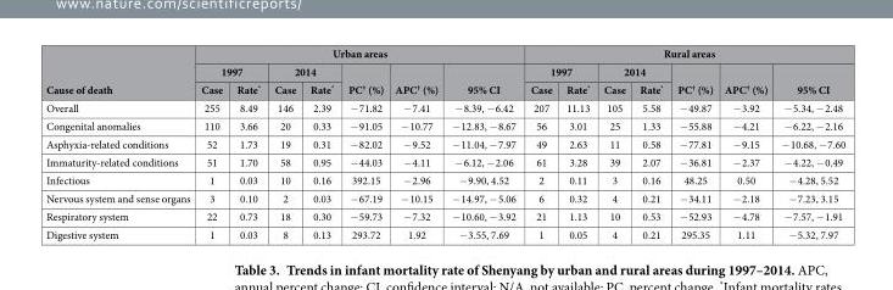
<table><thead><tr><td rowspan="3">Cause of death</td><td colspan="7">Urban areas</td><td colspan="7">Rural areas</td></tr><tr><td colspan="2">1997</td><td colspan="2">2014</td><td rowspan="2">PC† (%)</td><td rowspan="2">APC† (%)</td><td rowspan="2">95% CI</td><td colspan="2">1997</td><td colspan="2">2014</td><td rowspan="2">PC† (%)</td><td rowspan="2">APC† (%)</td><td rowspan="2">95% CI</td></tr><tr><td>Case</td><td>Rate*</td><td>Case</td><td>Rate*</td><td>Case</td><td>Rate*</td><td>Case</td><td>Rate*</td></tr></thead><tbody><tr><td>Overall</td><td>255</td><td>8.49</td><td>146</td><td>2.39</td><td>− 71.82</td><td>− 7.41</td><td>− 8.39, − 6.42</td><td>207</td><td>11.13</td><td>105</td><td>5.58</td><td>− 49.87</td><td>− 3.92</td><td>− 5.34, − 2.48</td></tr><tr><td>Congenital anomalies</td><td>110</td><td>3.66</td><td>20</td><td>0.33</td><td>− 91.05</td><td>− 10.77</td><td>− 12.83, − 8.67</td><td>56</td><td>3.01</td><td>25</td><td>1.33</td><td>− 55.88</td><td>− 4.21</td><td>− 6.22, − 2.16</td></tr><tr><td>Asphyxia-related conditions</td><td>52</td><td>1.73</td><td>19</td><td>0.31</td><td>− 82.02</td><td>− 9.52</td><td>− 11.04, − 7.97</td><td>49</td><td>2.63</td><td>11</td><td>0.58</td><td>− 77.81</td><td>− 9.15</td><td>− 10.68, − 7.60</td></tr><tr><td>Immaturity-related conditions</td><td>51</td><td>1.70</td><td>58</td><td>0.95</td><td>− 44.03</td><td>− 4.11</td><td>− 6.12, − 2.06</td><td>61</td><td>3.28</td><td>39</td><td>2.07</td><td>− 36.81</td><td>− 2.37</td><td>− 4.22, − 0.49</td></tr><tr><td>Infectious</td><td>1</td><td>0.03</td><td>10</td><td>0.16</td><td>392.15</td><td>− 2.96</td><td>− 9.90, 4.52</td><td>2</td><td>0.11</td><td>3</td><td>0.16</td><td>48.25</td><td>0.50</td><td>− 4.28, 5.52</td></tr><tr><td>Nervous system and sense organs</td><td>3</td><td>0.10</td><td>2</td><td>0.03</td><td>− 67.19</td><td>− 10.15</td><td>− 14.97, − 5.06</td><td>6</td><td>0.32</td><td>4</td><td>0.21</td><td>− 34.11</td><td>− 2.18</td><td>− 7.23, 3.15</td></tr><tr><td>Respiratory system</td><td>22</td><td>0.73</td><td>18</td><td>0.30</td><td>− 59.73</td><td>− 7.32</td><td>− 10.60, − 3.92</td><td>21</td><td>1.13</td><td>10</td><td>0.53</td><td>− 52.93</td><td>− 4.78</td><td>− 7.57, − 1.91</td></tr><tr><td>Digestive system</td><td>1</td><td>0.03</td><td>8</td><td>0.13</td><td>293.72</td><td>1.92</td><td>− 3.55, 7.69</td><td>1</td><td>0.05</td><td>4</td><td>0.21</td><td>295.35</td><td>1.11</td><td>− 5.32, 7.97</td></tr></tbody></table>